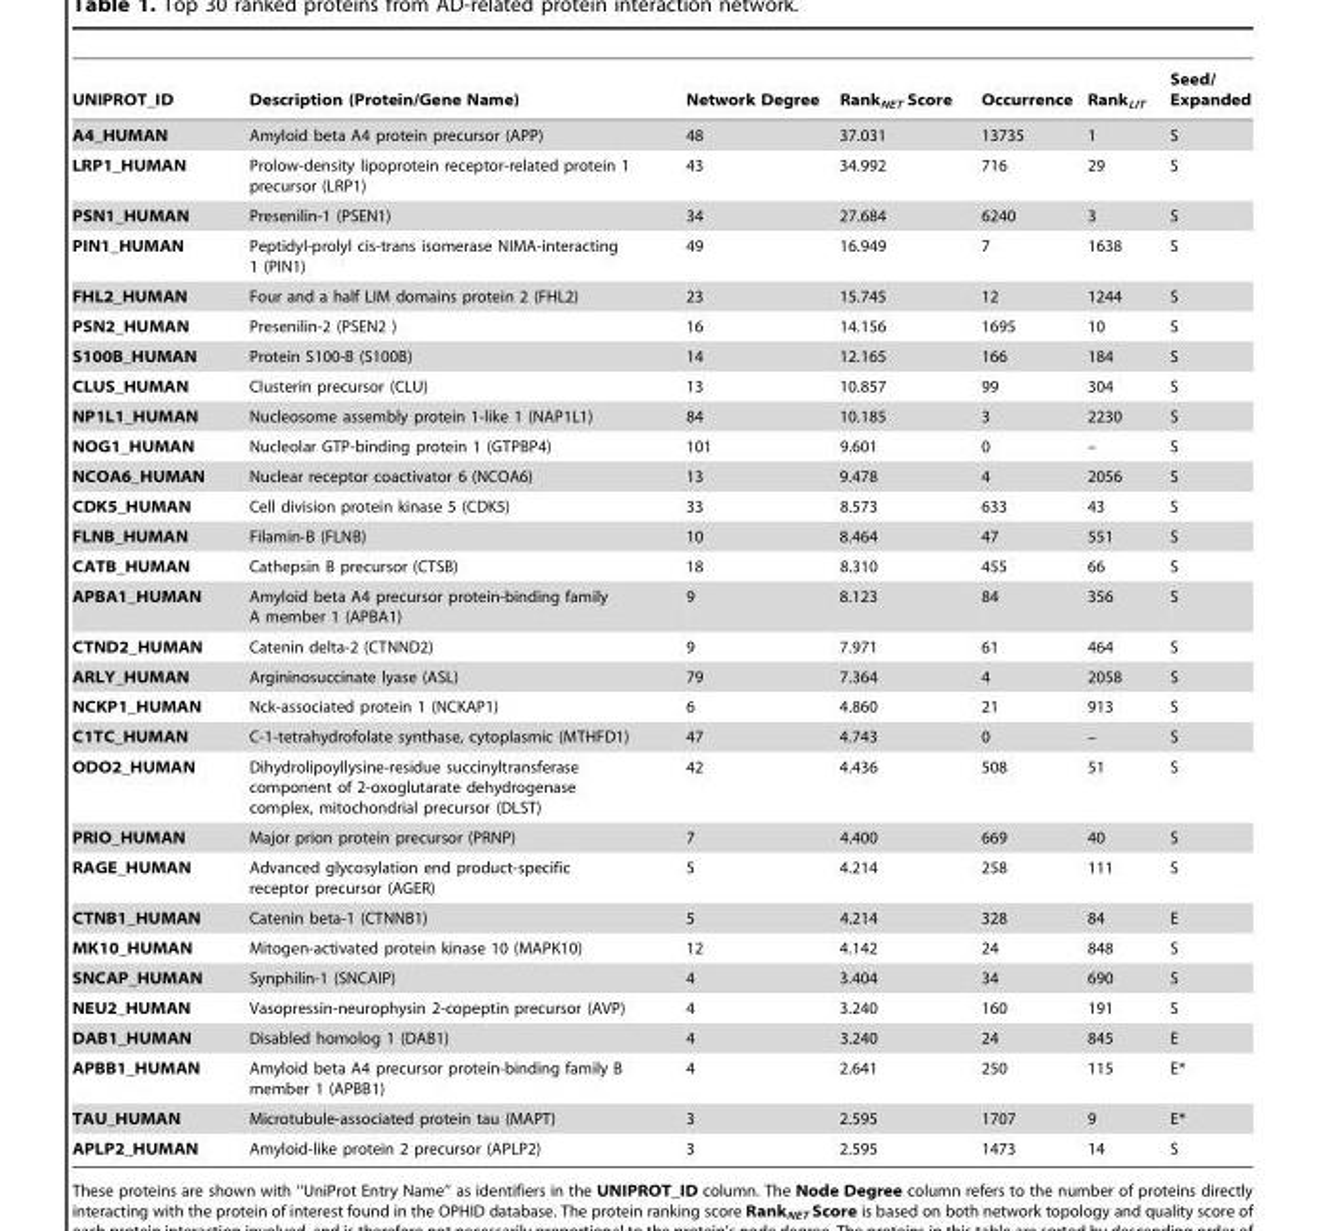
<table><thead><tr><td>UNIPROT_ID</td><td>Description (Protein/Gene Name)</td><td>Network Degree</td><td>Rank<sub>NET</sub> Score</td><td>Occurrence</td><td>Rank<sub>LIT</sub></td><td>Seed/ Expanded</td></tr></thead><tbody><tr><td>A4_HUMAN</td><td>Amyloid beta A4 protein precursor (APP)</td><td>48</td><td>37.031</td><td>13735</td><td>1</td><td>S</td></tr><tr><td>LRP1_HUMAN</td><td>Prolow-density lipoprotein receptor-related protein 1 precursor (LRP1)</td><td>43</td><td>34.992</td><td>716</td><td>29</td><td>S</td></tr><tr><td>PSN1_HUMAN</td><td>Presenilin-1 (PSEN1)</td><td>34</td><td>27.684</td><td>6240</td><td>3</td><td>S</td></tr><tr><td>PIN1_HUMAN</td><td>Peptidyl-prolyl cis-trans isomerase NIMA-interacting 1 (PIN1)</td><td>49</td><td>16.949</td><td>7</td><td>1638</td><td>S</td></tr><tr><td>FHL2_HUMAN</td><td>Four and a half LIM domains protein 2 (FHL2)</td><td>23</td><td>15.745</td><td>12</td><td>1244</td><td>S</td></tr><tr><td>PSN2_HUMAN</td><td>Presenilin-2 (PSEN2 )</td><td>16</td><td>14.156</td><td>1695</td><td>10</td><td>S</td></tr><tr><td>S100B_HUMAN</td><td>Protein S100-B (S100B)</td><td>14</td><td>12.165</td><td>166</td><td>184</td><td>S</td></tr><tr><td>CLUS_HUMAN</td><td>Clusterin precursor (CLU)</td><td>13</td><td>10.857</td><td>99</td><td>304</td><td>S</td></tr><tr><td>NP1L1_HUMAN</td><td>Nucleosome assembly protein 1-like 1 (NAP1L1)</td><td>84</td><td>10.185</td><td>3</td><td>2230</td><td>S</td></tr><tr><td>NOG1_HUMAN</td><td>Nucleolar GTP-binding protein 1 (GTPBP4)</td><td>101</td><td>9.601</td><td>0</td><td>–</td><td>S</td></tr><tr><td>NCOA6_HUMAN</td><td>Nuclear receptor coactivator 6 (NCOA6)</td><td>13</td><td>9.478</td><td>4</td><td>2056</td><td>S</td></tr><tr><td>CDK5_HUMAN</td><td>Cell division protein kinase 5 (CDK5)</td><td>33</td><td>8.573</td><td>633</td><td>43</td><td>S</td></tr><tr><td>FLNB_HUMAN</td><td>Filamin-B (FLNB)</td><td>10</td><td>8.464</td><td>47</td><td>551</td><td>S</td></tr><tr><td>CATB_HUMAN</td><td>Cathepsin B precursor (CTSB)</td><td>18</td><td>8.310</td><td>455</td><td>66</td><td>S</td></tr><tr><td>APBA1_HUMAN</td><td>Amyloid beta A4 precursor protein-binding family A member 1 (APBA1)</td><td>9</td><td>8.123</td><td>84</td><td>356</td><td>S</td></tr><tr><td>CTND2_HUMAN</td><td>Catenin delta-2 (CTNND2)</td><td>9</td><td>7.971</td><td>61</td><td>464</td><td>S</td></tr><tr><td>ARLY_HUMAN</td><td>Argininosuccinate lyase (ASL)</td><td>79</td><td>7.364</td><td>4</td><td>2058</td><td>S</td></tr><tr><td>NCKP1_HUMAN</td><td>Nck-associated protein 1 (NCKAP1)</td><td>6</td><td>4.860</td><td>21</td><td>913</td><td>S</td></tr><tr><td>C1TC_HUMAN</td><td>C-1-tetrahydrofolate synthase, cytoplasmic (MTHFD1)</td><td>47</td><td>4.743</td><td>0</td><td>–</td><td>S</td></tr><tr><td>ODO2_HUMAN</td><td>Dihydrolipoyllysine-residue succinyltransferase component of 2-oxoglutarate dehydrogenase complex, mitochondrial precursor (DLST)</td><td>42</td><td>4.436</td><td>508</td><td>51</td><td>S</td></tr><tr><td>PRIO_HUMAN</td><td>Major prion protein precursor (PRNP)</td><td>7</td><td>4.400</td><td>669</td><td>40</td><td>S</td></tr><tr><td>RAGE_HUMAN</td><td>Advanced glycosylation end product-specific receptor precursor (AGER)</td><td>5</td><td>4.214</td><td>258</td><td>111</td><td>S</td></tr><tr><td>CTNB1_HUMAN</td><td>Catenin beta-1 (CTNNB1)</td><td>5</td><td>4.214</td><td>328</td><td>84</td><td>E</td></tr><tr><td>MK10_HUMAN</td><td>Mitogen-activated protein kinase 10 (MAPK10)</td><td>12</td><td>4.142</td><td>24</td><td>848</td><td>S</td></tr><tr><td>SNCAP_HUMAN</td><td>Synphilin-1 (SNCAIP)</td><td>4</td><td>3.404</td><td>34</td><td>690</td><td>S</td></tr><tr><td>NEU2_HUMAN</td><td>Vasopressin-neurophysin 2-copeptin precursor (AVP)</td><td>4</td><td>3.240</td><td>160</td><td>191</td><td>S</td></tr><tr><td>DAB1_HUMAN</td><td>Disabled homolog 1 (DAB1)</td><td>4</td><td>3.240</td><td>24</td><td>845</td><td>E</td></tr><tr><td>APBB1_HUMAN</td><td>Amyloid beta A4 precursor protein-binding family B member 1 (APBB1)</td><td>4</td><td>2.641</td><td>250</td><td>115</td><td>E*</td></tr><tr><td>TAU_HUMAN</td><td>Microtubule-associated protein tau (MAPT)</td><td>3</td><td>2.595</td><td>1707</td><td>9</td><td>E*</td></tr><tr><td>APLP2_HUMAN</td><td>Amyloid-like protein 2 precursor (APLP2)</td><td>3</td><td>2.595</td><td>1473</td><td>14</td><td>S</td></tr></tbody></table>